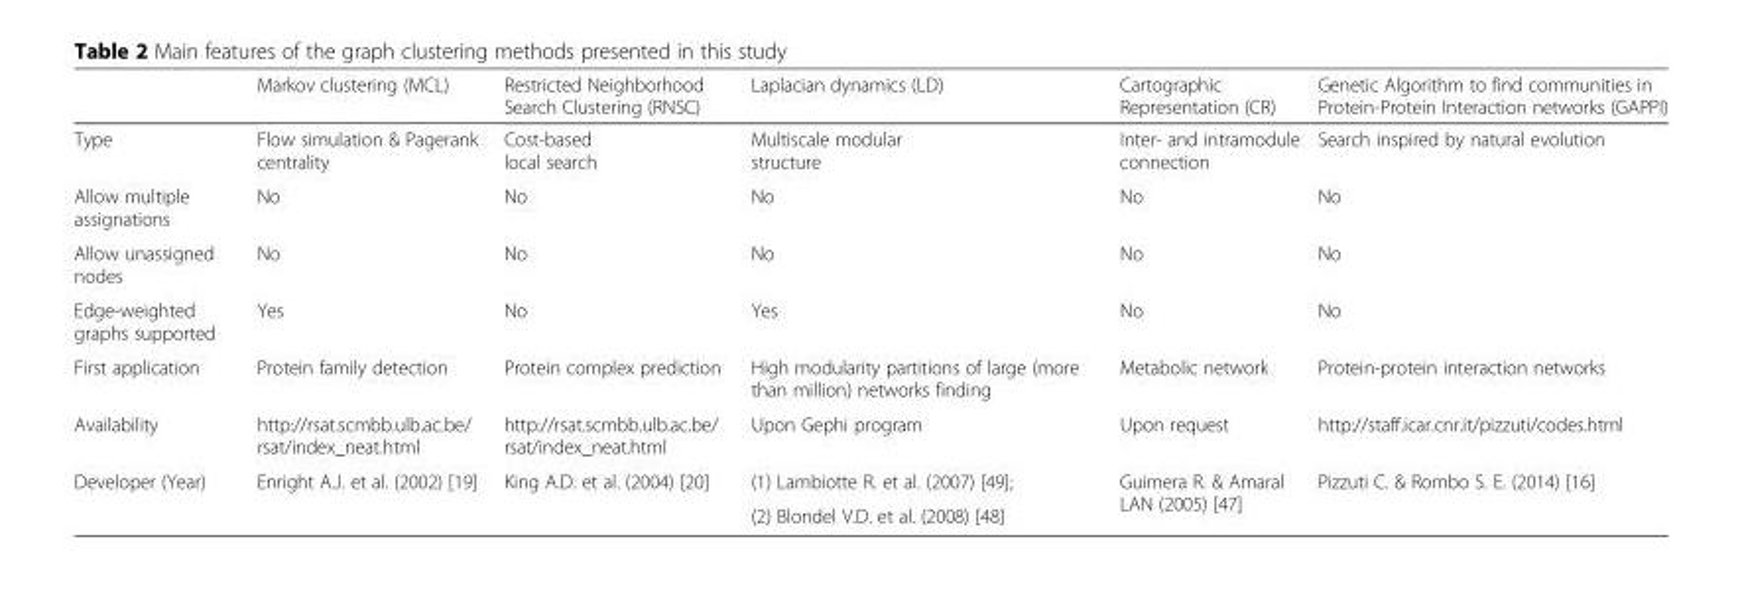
<table><thead><tr><td></td><td>Markov clustering (MCL)</td><td>Restricted Neighborhood Search Clustering (RNSC)</td><td>Laplacian dynamics (LD)</td><td>Cartographic Representation (CR)</td><td>Genetic Algorithm to find communities in Protein-Protein Interaction networks (GAPPI)</td></tr></thead><tbody><tr><td>Type</td><td>Flow simulation &amp; Pagerank centrality</td><td>Cost-based local search</td><td>Multiscale modular structure</td><td>Inter- and intramodule connection</td><td>Search inspired by natural evolution</td></tr><tr><td>Allow multiple assignations</td><td>No</td><td>No</td><td>No</td><td>No</td><td>No</td></tr><tr><td>Allow unassigned nodes</td><td>No</td><td>No</td><td>No</td><td>No</td><td>No</td></tr><tr><td>Edge-weighted graphs supported</td><td>Yes</td><td>No</td><td>Yes</td><td>No</td><td>No</td></tr><tr><td>First application</td><td>Protein family detection</td><td>Protein complex prediction</td><td>High modularity partitions of large (more than million) networks finding</td><td>Metabolic network</td><td>Protein-protein interaction networks</td></tr><tr><td>Availability</td><td>http://rsat.scmbb.ulb.ac.be/ rsat/index_neat.html</td><td>http://rsat.scmbb.ulb.ac.be/ rsat/index_neat.html</td><td>Upon Gephi program</td><td>Upon request</td><td>http://staff.icar.cnr.it/pizzuti/codes.html</td></tr><tr><td rowspan="2">Developer (Year)</td><td rowspan="2">Enright A.J. et al. (2002) [19]</td><td rowspan="2">King A.D. et al. (2004) [20]</td><td>(1) Lambiotte R. et al. (2007) [49];</td><td rowspan="2">Guimera R. &amp; Amaral LAN (2005) [47]</td><td rowspan="2">Pizzuti C. &amp; Rombo S. E. (2014) [16]</td></tr><tr><td>(2) Blondel V.D. et al. (2008) [48]</td></tr></tbody></table>